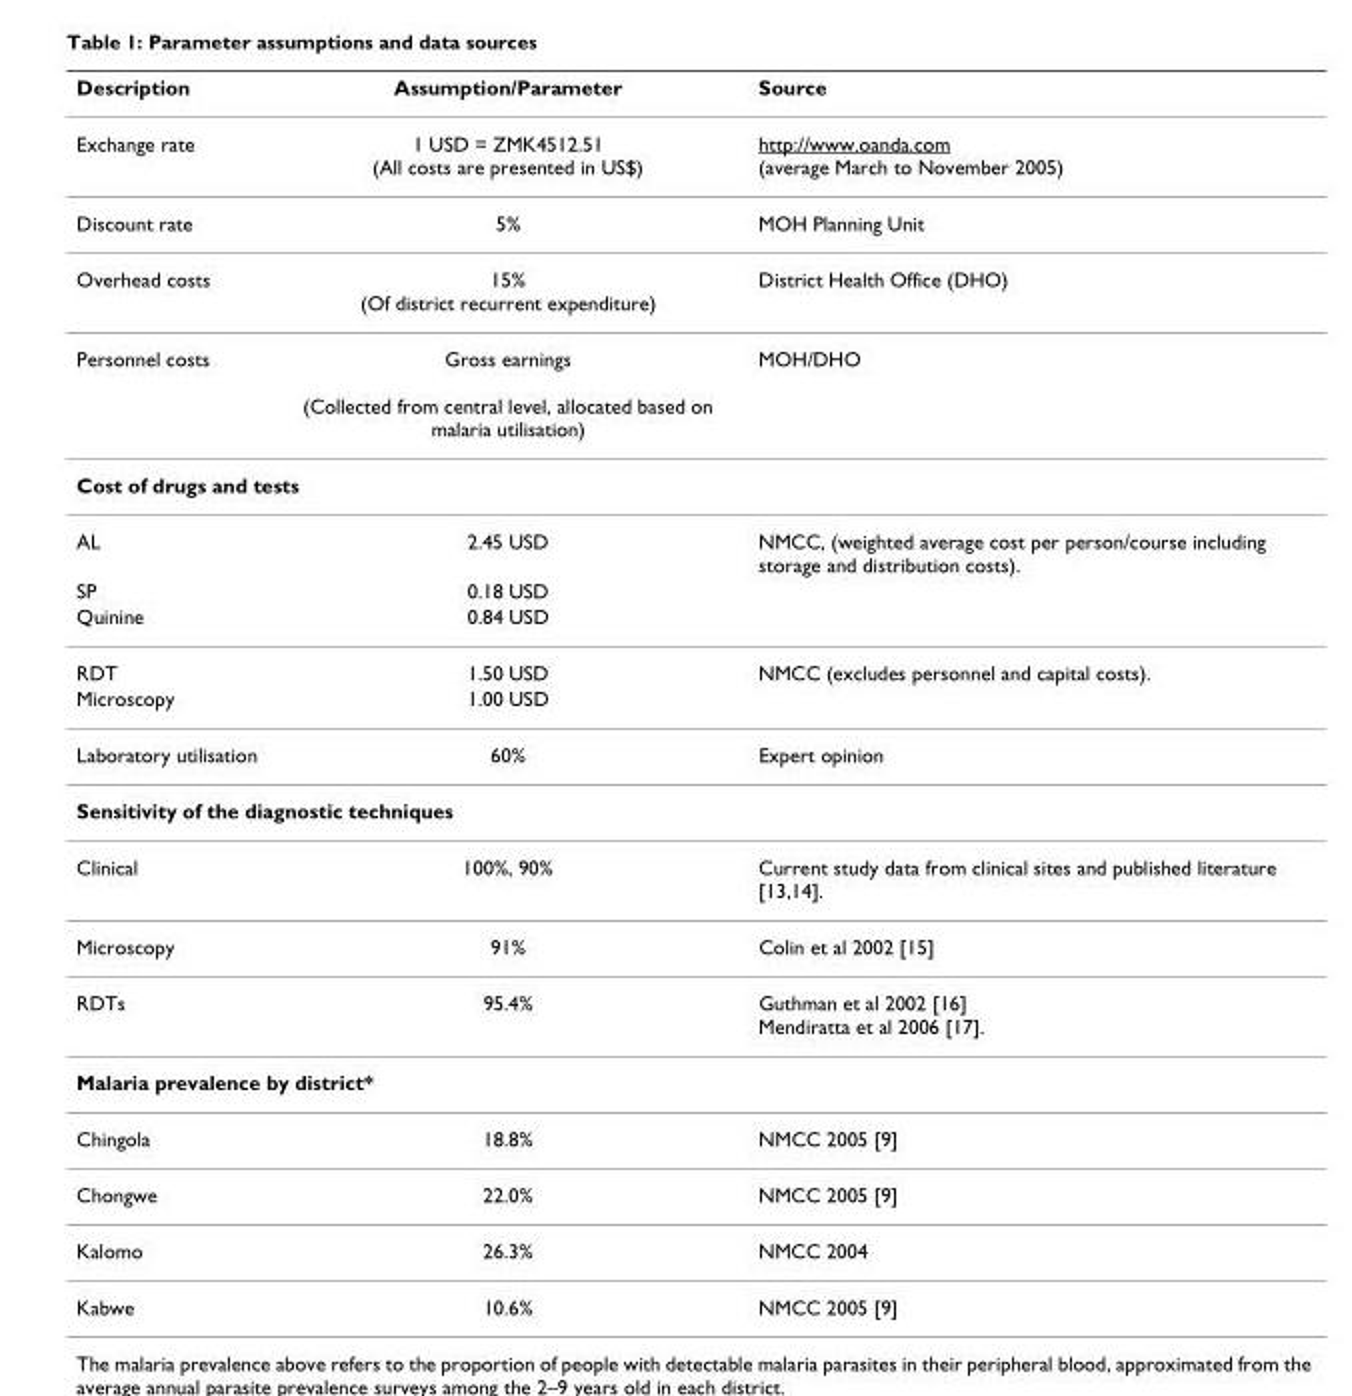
<table><thead><tr><td>Description</td><td>Assumption/Parameter</td><td>Source</td></tr></thead><tbody><tr><td>Exchange rate</td><td>1 USD = ZMK4512.51 (All costs are presented in US$)</td><td>http://www.oanda.com (average March to November 2005)</td></tr><tr><td>Discount rate</td><td>5%</td><td>MOH Planning Unit</td></tr><tr><td>Overhead costs</td><td>15% (Of district recurrent expenditure)</td><td>District Health Office (DHO)</td></tr><tr><td>Personnel costs</td><td>Gross earnings (Collected from central level, allocated based on malaria utilisation)</td><td>MOH/DHO</td></tr><tr><td colspan="3">Cost of drugs and tests</td></tr><tr><td>AL</td><td>2.45 USD</td><td>NMCC, (weighted average cost per person/course including storage and distribution costs).</td></tr><tr><td>SP</td><td>0.18 USD</td><td></td></tr><tr><td>Quinine</td><td>0.84 USD</td><td></td></tr><tr><td>RDT</td><td>1.50 USD</td><td>NMCC (excludes personnel and capital costs).</td></tr><tr><td>Microscopy</td><td>1.00 USD</td><td></td></tr><tr><td>Laboratory utilisation</td><td>60%</td><td>Expert opinion</td></tr><tr><td colspan="3">Sensitivity of the diagnostic techniques</td></tr><tr><td>Clinical</td><td>100%, 90%</td><td>Current study data from clinical sites and published literature [13,14].</td></tr><tr><td>Microscopy</td><td>91%</td><td>Colin et al 2002 [15]</td></tr><tr><td>RDTs</td><td>95.4%</td><td>Guthman et al 2002 [16] Mendiratta et al 2006 [17].</td></tr><tr><td colspan="3">Malaria prevalence by district*</td></tr><tr><td>Chingola</td><td>18.8%</td><td>NMCC 2005 [9]</td></tr><tr><td>Chongwe</td><td>22.0%</td><td>NMCC 2005 [9]</td></tr><tr><td>Kalomo</td><td>26.3%</td><td>NMCC 2004</td></tr><tr><td>Kabwe</td><td>10.6%</td><td>NMCC 2005 [9]</td></tr></tbody></table>